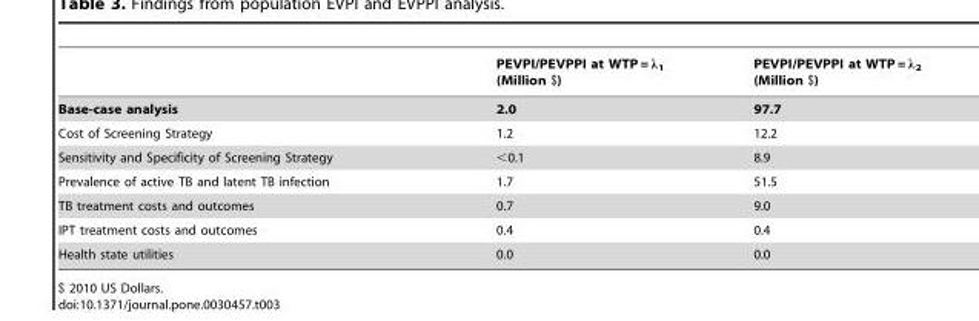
<table><thead><tr><td></td><td>PEVPI/PEVPPI at WTP = λ<sub>1</sub> (Million $)</td><td>PEVPI/PEVPPI at WTP = λ<sub>2</sub> (Million $)</td></tr></thead><tbody><tr><td>Base-case analysis</td><td>2.0</td><td>97.7</td></tr><tr><td>Cost of Screening Strategy</td><td>1.2</td><td>12.2</td></tr><tr><td>Sensitivity and Specificity of Screening Strategy</td><td>&lt;0.1</td><td>8.9</td></tr><tr><td>Prevalence of active TB and latent TB infection</td><td>1.7</td><td>51.5</td></tr><tr><td>TB treatment costs and outcomes</td><td>0.7</td><td>9.0</td></tr><tr><td>IPT treatment costs and outcomes</td><td>0.4</td><td>0.4</td></tr><tr><td>Health state utilities</td><td>0.0</td><td>0.0</td></tr></tbody></table>